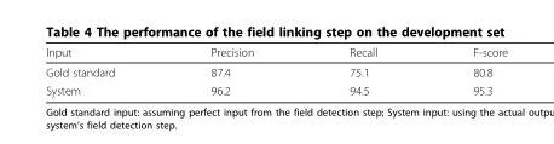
<table><thead><tr><td>Input</td><td>Precision</td><td>Recall</td><td>F-score</td></tr></thead><tbody><tr><td>Gold standard</td><td>87.4</td><td>75.1</td><td>80.8</td></tr><tr><td>System</td><td>96.2</td><td>94.5</td><td>95.3</td></tr></tbody></table>